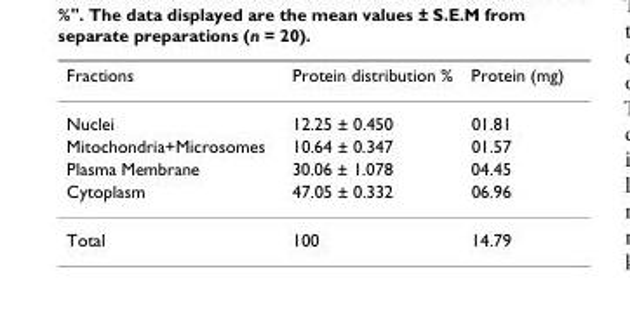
<table><thead><tr><td>Fractions</td><td>Protein distribution %</td><td>Protein (mg)</td></tr></thead><tbody><tr><td>Nuclei</td><td>12.25 ± 0.450</td><td>01.81</td></tr><tr><td>Mitochondria+Microsomes</td><td>10.64 ± 0.347</td><td>01.57</td></tr><tr><td>Plasma Membrane</td><td>30.06 ± 1.078</td><td>04.45</td></tr><tr><td>Cytoplasm</td><td>47.05 ± 0.332</td><td>06.96</td></tr><tr><td>Total</td><td>100</td><td>14.79</td></tr></tbody></table>